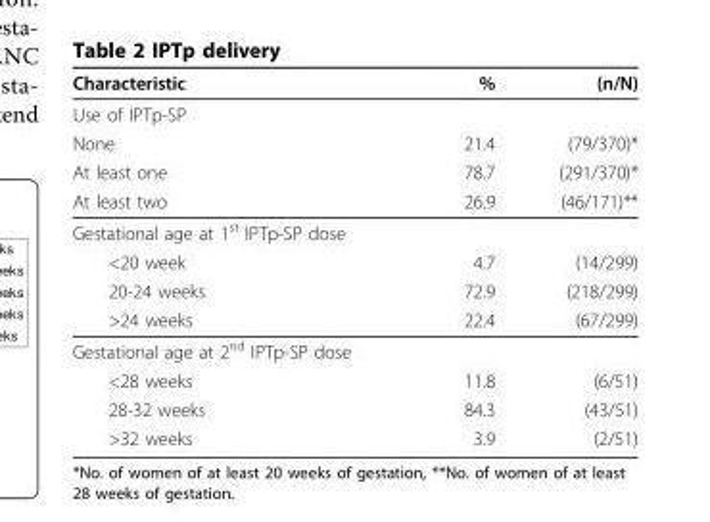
<table><thead><tr><td>Characteristic</td><td>%</td><td>(n/N)</td></tr></thead><tbody><tr><td colspan="3">Use of IPTp-SP</td></tr><tr><td>None</td><td>21.4</td><td>(79/370)*</td></tr><tr><td>At least one</td><td>78.7</td><td>(291/370)*</td></tr><tr><td>At least two</td><td>26.9</td><td>(46/171)**</td></tr><tr><td colspan="3">Gestational age at 1<sup>st</sup> IPTp-SP dose</td></tr><tr><td>&lt;20 week</td><td>4.7</td><td>(14/299)</td></tr><tr><td>20-24 weeks</td><td>72.9</td><td>(218/299)</td></tr><tr><td>&gt;24 weeks</td><td>22.4</td><td>(67/299)</td></tr><tr><td colspan="3">Gestational age at 2<sup>nd</sup> IPTp-SP dose</td></tr><tr><td>&lt;28 weeks</td><td>11.8</td><td>(6/51)</td></tr><tr><td>28-32 weeks</td><td>84.3</td><td>(43/51)</td></tr><tr><td>&gt;32 weeks</td><td>3.9</td><td>(2/51)</td></tr></tbody></table>